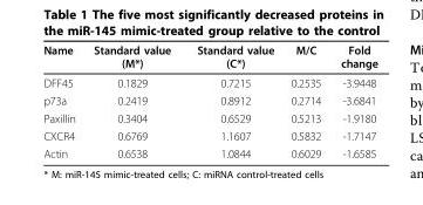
<table><thead><tr><td>Name</td><td>Standard value (M*)</td><td>Standard value (C*)</td><td>M/C</td><td>Fold change</td></tr></thead><tbody><tr><td>DFF45</td><td>0.1829</td><td>0.7215</td><td>0.2535</td><td>-3.9448</td></tr><tr><td>p73a</td><td>0.2419</td><td>0.8912</td><td>0.2714</td><td>-3.6841</td></tr><tr><td>Paxillin</td><td>0.3404</td><td>0.6529</td><td>0.5213</td><td>-1.9180</td></tr><tr><td>CXCR4</td><td>0.6769</td><td>1.1607</td><td>0.5832</td><td>-1.7147</td></tr><tr><td>Actin</td><td>0.6538</td><td>1.0844</td><td>0.6029</td><td>-1.6585</td></tr></tbody></table>